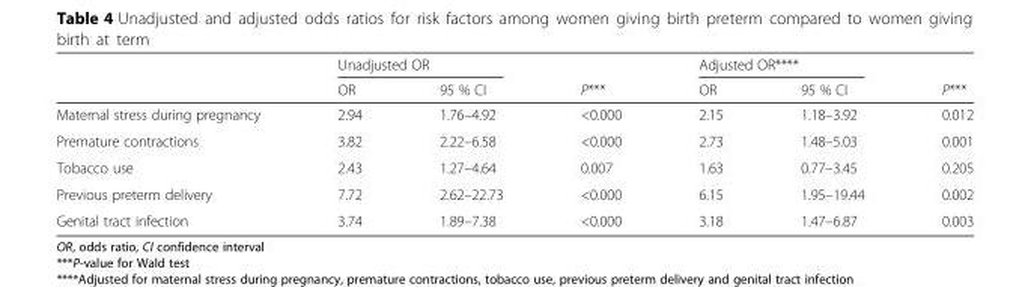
<table><thead><tr><td rowspan="2"></td><td colspan="2">Unadjusted OR</td><td rowspan="2">P***</td><td colspan="2">Adjusted OR****</td><td rowspan="2">P***</td></tr><tr><td>OR</td><td>95 % CI</td><td>OR</td><td>95 % CI</td></tr></thead><tbody><tr><td>Maternal stress during pregnancy</td><td>2.94</td><td>1.76–4.92</td><td>&lt;0.000</td><td>2.15</td><td>1.18–3.92</td><td>0.012</td></tr><tr><td>Premature contractions</td><td>3.82</td><td>2.22–6.58</td><td>&lt;0.000</td><td>2.73</td><td>1.48–5.03</td><td>0.001</td></tr><tr><td>Tobacco use</td><td>2.43</td><td>1.27–4.64</td><td>0.007</td><td>1.63</td><td>0.77–3.45</td><td>0.205</td></tr><tr><td>Previous preterm delivery</td><td>7.72</td><td>2.62–22.73</td><td>&lt;0.000</td><td>6.15</td><td>1.95–19.44</td><td>0.002</td></tr><tr><td>Genital tract infection</td><td>3.74</td><td>1.89–7.38</td><td>&lt;0.000</td><td>3.18</td><td>1.47–6.87</td><td>0.003</td></tr></tbody></table>